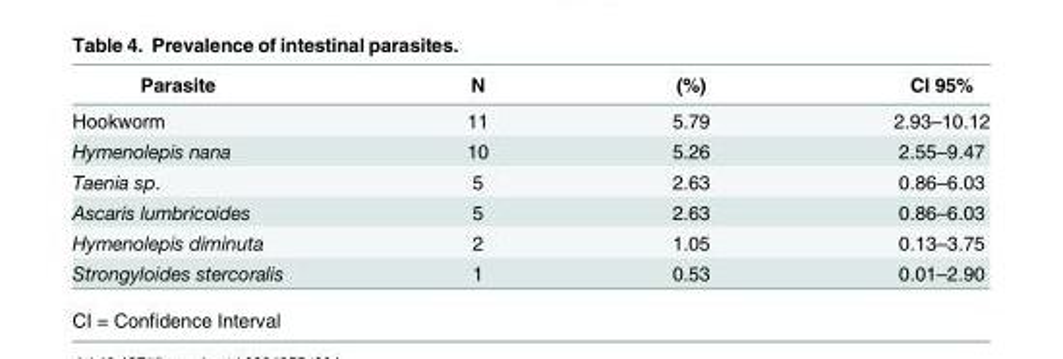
<table><thead><tr><td>Parasite</td><td>N</td><td>(%)</td><td>CI 95%</td></tr></thead><tbody><tr><td>Hookworm</td><td>11</td><td>5.79</td><td>2.93–10.12</td></tr><tr><td>Hymenolepis nana</td><td>10</td><td>5.26</td><td>2.55–9.47</td></tr><tr><td>Taenia sp.</td><td>5</td><td>2.63</td><td>0.86–6.03</td></tr><tr><td>Ascaris lumbricoides</td><td>5</td><td>2.63</td><td>0.86–6.03</td></tr><tr><td>Hymenolepis diminuta</td><td>2</td><td>1.05</td><td>0.13–3.75</td></tr><tr><td>Strongyloides stercoralis</td><td>1</td><td>0.53</td><td>0.01–2.90</td></tr></tbody></table>